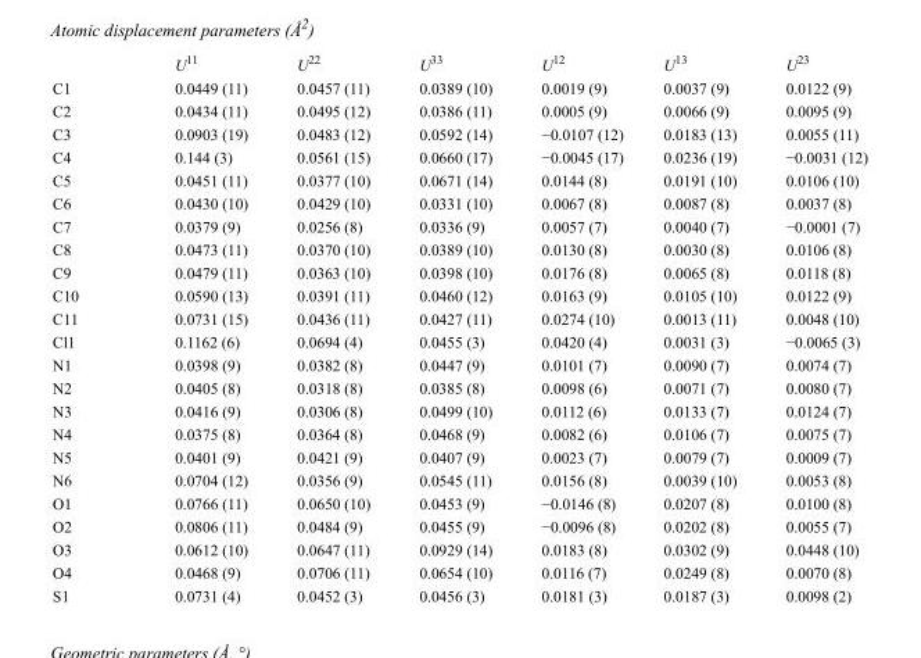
<table><thead><tr><td></td><td>U<sup>11</sup></td><td>U<sup>22</sup></td><td>U<sup>33</sup></td><td>U<sup>12</sup></td><td>U<sup>13</sup></td><td>U<sup>23</sup></td></tr></thead><tbody><tr><td>C1</td><td>0.0449 (11)</td><td>0.0457 (11)</td><td>0.0389 (10)</td><td>0.0019 (9)</td><td>0.0037 (9)</td><td>0.0122 (9)</td></tr><tr><td>C2</td><td>0.0434 (11)</td><td>0.0495 (12)</td><td>0.0386 (11)</td><td>0.0005 (9)</td><td>0.0066 (9)</td><td>0.0095 (9)</td></tr><tr><td>C3</td><td>0.0903 (19)</td><td>0.0483 (12)</td><td>0.0592 (14)</td><td>−0.0107 (12)</td><td>0.0183 (13)</td><td>0.0055 (11)</td></tr><tr><td>C4</td><td>0.144 (3)</td><td>0.0561 (15)</td><td>0.0660 (17)</td><td>−0.0045 (17)</td><td>0.0236 (19)</td><td>−0.0031 (12)</td></tr><tr><td>C5</td><td>0.0451 (11)</td><td>0.0377 (10)</td><td>0.0671 (14)</td><td>0.0144 (8)</td><td>0.0191 (10)</td><td>0.0106 (10)</td></tr><tr><td>C6</td><td>0.0430 (10)</td><td>0.0429 (10)</td><td>0.0331 (10)</td><td>0.0067 (8)</td><td>0.0087 (8)</td><td>0.0037 (8)</td></tr><tr><td>C7</td><td>0.0379 (9)</td><td>0.0256 (8)</td><td>0.0336 (9)</td><td>0.0057 (7)</td><td>0.0040 (7)</td><td>−0.0001 (7)</td></tr><tr><td>C8</td><td>0.0473 (11)</td><td>0.0370 (10)</td><td>0.0389 (10)</td><td>0.0130 (8)</td><td>0.0030 (8)</td><td>0.0106 (8)</td></tr><tr><td>C9</td><td>0.0479 (11)</td><td>0.0363 (10)</td><td>0.0398 (10)</td><td>0.0176 (8)</td><td>0.0065 (8)</td><td>0.0118 (8)</td></tr><tr><td>C10</td><td>0.0590 (13)</td><td>0.0391 (11)</td><td>0.0460 (12)</td><td>0.0163 (9)</td><td>0.0105 (10)</td><td>0.0122 (9)</td></tr><tr><td>C11</td><td>0.0731 (15)</td><td>0.0436 (11)</td><td>0.0427 (11)</td><td>0.0274 (10)</td><td>0.0013 (11)</td><td>0.0048 (10)</td></tr><tr><td>Cl1</td><td>0.1162 (6)</td><td>0.0694 (4)</td><td>0.0455 (3)</td><td>0.0420 (4)</td><td>0.0031 (3)</td><td>−0.0065 (3)</td></tr><tr><td>N1</td><td>0.0398 (9)</td><td>0.0382 (8)</td><td>0.0447 (9)</td><td>0.0101 (7)</td><td>0.0090 (7)</td><td>0.0074 (7)</td></tr><tr><td>N2</td><td>0.0405 (8)</td><td>0.0318 (8)</td><td>0.0385 (8)</td><td>0.0098 (6)</td><td>0.0071 (7)</td><td>0.0080 (7)</td></tr><tr><td>N3</td><td>0.0416 (9)</td><td>0.0306 (8)</td><td>0.0499 (10)</td><td>0.0112 (6)</td><td>0.0133 (7)</td><td>0.0124 (7)</td></tr><tr><td>N4</td><td>0.0375 (8)</td><td>0.0364 (8)</td><td>0.0468 (9)</td><td>0.0082 (6)</td><td>0.0106 (7)</td><td>0.0075 (7)</td></tr><tr><td>N5</td><td>0.0401 (9)</td><td>0.0421 (9)</td><td>0.0407 (9)</td><td>0.0023 (7)</td><td>0.0079 (7)</td><td>0.0009 (7)</td></tr><tr><td>N6</td><td>0.0704 (12)</td><td>0.0356 (9)</td><td>0.0545 (11)</td><td>0.0156 (8)</td><td>0.0039 (10)</td><td>0.0053 (8)</td></tr><tr><td>O1</td><td>0.0766 (11)</td><td>0.0650 (10)</td><td>0.0453 (9)</td><td>−0.0146 (8)</td><td>0.0207 (8)</td><td>0.0100 (8)</td></tr><tr><td>O2</td><td>0.0806 (11)</td><td>0.0484 (9)</td><td>0.0455 (9)</td><td>−0.0096 (8)</td><td>0.0202 (8)</td><td>0.0055 (7)</td></tr><tr><td>O3</td><td>0.0612 (10)</td><td>0.0647 (11)</td><td>0.0929 (14)</td><td>0.0183 (8)</td><td>0.0302 (9)</td><td>0.0448 (10)</td></tr><tr><td>O4</td><td>0.0468 (9)</td><td>0.0706 (11)</td><td>0.0654 (10)</td><td>0.0116 (7)</td><td>0.0249 (8)</td><td>0.0070 (8)</td></tr><tr><td>S1</td><td>0.0731 (4)</td><td>0.0452 (3)</td><td>0.0456 (3)</td><td>0.0181 (3)</td><td>0.0187 (3)</td><td>0.0098 (2)</td></tr></tbody></table>